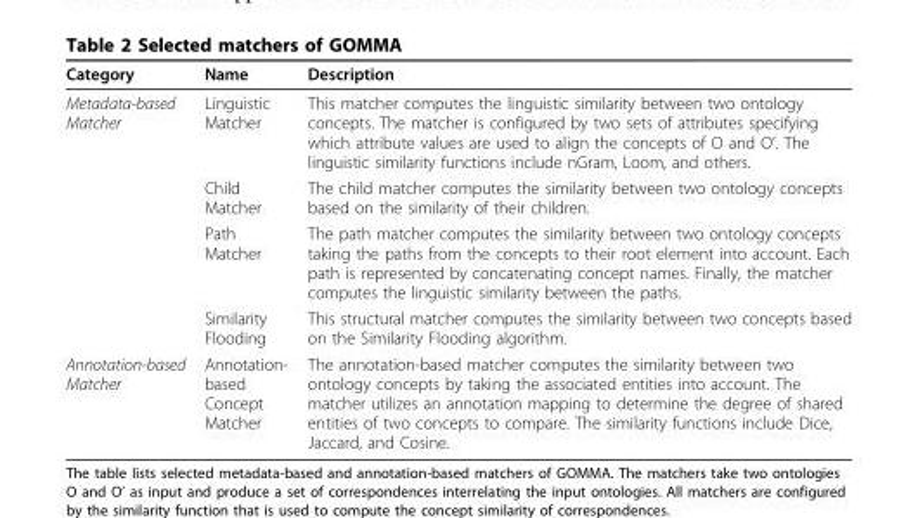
<table><thead><tr><td>Category</td><td>Name</td><td>Description</td></tr></thead><tbody><tr><td rowspan="4">Metadata-based Matcher</td><td>Linguistic Matcher</td><td>This matcher computes the linguistic similarity between two ontology concepts. The matcher is configured by two sets of attributes specifying which attribute values are used to align the concepts of O and O’. The linguistic similarity functions include nGram, Loom, and others.</td></tr><tr><td>Child Matcher</td><td>The child matcher computes the similarity between two ontology concepts based on the similarity of their children.</td></tr><tr><td>Path Matcher</td><td>The path matcher computes the similarity between two ontology concepts taking the paths from the concepts to their root element into account. Each path is represented by concatenating concept names. Finally, the matcher computes the linguistic similarity between the paths.</td></tr><tr><td>Similarity Flooding</td><td>This structural matcher computes the similarity between two concepts based on the Similarity Flooding algorithm.</td></tr><tr><td>Annotation-based Matcher</td><td>Annotation- based Concept Matcher</td><td>The annotation-based matcher computes the similarity between two ontology concepts by taking the associated entities into account. The matcher utilizes an annotation mapping to determine the degree of shared entities of two concepts to compare. The similarity functions include Dice, Jaccard, and Cosine.</td></tr></tbody></table>